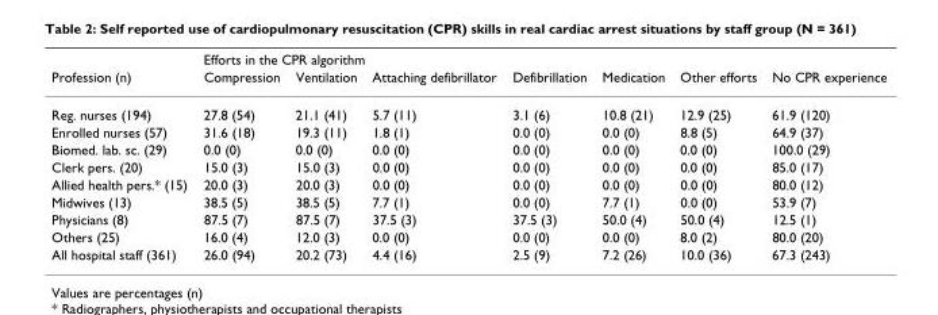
<table><thead><tr><td rowspan="2">Profession (n)</td><td colspan="7">Efforts in the CPR algorithm</td></tr><tr><td>Compression</td><td>Ventilation</td><td>Attaching defibrillator</td><td>Defibrillation</td><td>Medication</td><td>Other efforts</td><td>No CPR experience</td></tr></thead><tbody><tr><td>Reg. nurses (194)</td><td>27.8 (54)</td><td>21.1 (41)</td><td>5.7 (11)</td><td>3.1 (6)</td><td>10.8 (21)</td><td>12.9 (25)</td><td>61.9 (120)</td></tr><tr><td>Enrolled nurses (57)</td><td>31.6 (18)</td><td>19.3 (11)</td><td>1.8 (1)</td><td>0.0 (0)</td><td>0.0 (0)</td><td>8.8 (5)</td><td>64.9 (37)</td></tr><tr><td>Biomed. lab. sc. (29)</td><td>0.0 (0)</td><td>0.0 (0)</td><td>0.0 (0)</td><td>0.0 (0)</td><td>0.0 (0)</td><td>0.0 (0)</td><td>100.0 (29)</td></tr><tr><td>Clerk pers. (20)</td><td>15.0 (3)</td><td>15.0 (3)</td><td>0.0 (0)</td><td>0.0 (0)</td><td>0.0 (0)</td><td>0.0 (0)</td><td>85.0 (17)</td></tr><tr><td>Allied health pers.* (15)</td><td>20.0 (3)</td><td>20.0 (3)</td><td>0.0 (0)</td><td>0.0 (0)</td><td>0.0 (0)</td><td>0.0 (0)</td><td>80.0 (12)</td></tr><tr><td>Midwives (13)</td><td>38.5 (5)</td><td>38.5 (5)</td><td>7.7 (1)</td><td>0.0 (0)</td><td>7.7 (1)</td><td>0.0 (0)</td><td>53.9 (7)</td></tr><tr><td>Physicians (8)</td><td>87.5 (7)</td><td>87.5 (7)</td><td>37.5 (3)</td><td>37.5 (3)</td><td>50.0 (4)</td><td>50.0 (4)</td><td>12.5 (1)</td></tr><tr><td>Others (25)</td><td>16.0 (4)</td><td>12.0 (3)</td><td>0.0 (0)</td><td>0.0 (0)</td><td>0.0 (0)</td><td>8.0 (2)</td><td>80.0 (20)</td></tr><tr><td>All hospital staff (361)</td><td>26.0 (94)</td><td>20.2 (73)</td><td>4.4 (16)</td><td>2.5 (9)</td><td>7.2 (26)</td><td>10.0 (36)</td><td>67.3 (243)</td></tr></tbody></table>